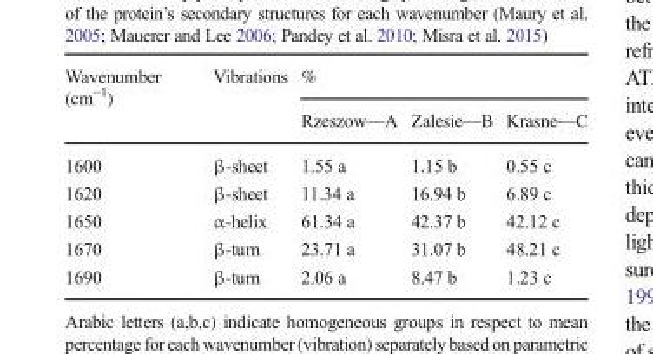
<table><thead><tr><td rowspan="2">Wavenumber (cm<sup>−1</sup>)</td><td rowspan="2">Vibrations</td><td colspan="3">%</td></tr><tr><td>Rzeszow—A</td><td>Zalesie—B</td><td>Krasne—C</td></tr></thead><tbody><tr><td>1600</td><td>β-sheet</td><td>1.55 a</td><td>1.15 b</td><td>0.55 c</td></tr><tr><td>1620</td><td>β-sheet</td><td>11.34 a</td><td>16.94 b</td><td>6.89 c</td></tr><tr><td>1650</td><td>α-helix</td><td>61.34 a</td><td>42.37 b</td><td>42.12 c</td></tr><tr><td>1670</td><td>β-turn</td><td>23.71 a</td><td>31.07 b</td><td>48.21 c</td></tr><tr><td>1690</td><td>β-turn</td><td>2.06 a</td><td>8.47 b</td><td>1.23 c</td></tr></tbody></table>